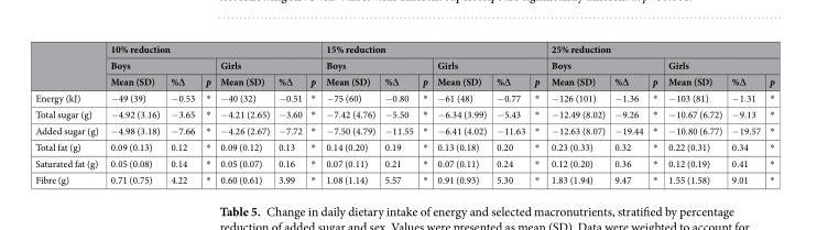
<table><thead><tr><td rowspan="3"></td><td colspan="6">10% reduction</td><td colspan="6">15% reduction</td><td colspan="6">25% reduction</td></tr><tr><td colspan="3">Boys</td><td colspan="3">Girls</td><td colspan="3">Boys</td><td colspan="3">Girls</td><td colspan="3">Boys</td><td colspan="3">Girls</td></tr><tr><td>Mean (SD)</td><td>%∆</td><td>p</td><td>Mean (SD)</td><td>%∆</td><td>p</td><td>Mean (SD)</td><td>%∆</td><td>p</td><td>Mean (SD)</td><td>%∆</td><td>p</td><td>Mean (SD)</td><td>%∆</td><td>p</td><td>Mean (SD)</td><td>%∆</td><td>p</td></tr></thead><tbody><tr><td>Energy (kJ)</td><td>−49 (39)</td><td>−0.53</td><td>*</td><td>−40 (32)</td><td>−0.51</td><td>*</td><td>−75 (60)</td><td>−0.80</td><td>*</td><td>−61 (48)</td><td>−0.77</td><td>*</td><td>−126 (101)</td><td>−1.36</td><td>*</td><td>−103 (81)</td><td>−1.31</td><td>*</td></tr><tr><td>Total sugar (g)</td><td>−4.92 (3.16)</td><td>−3.65</td><td>*</td><td>−4.21 (2.65)</td><td>−3.60</td><td>*</td><td>−7.42 (4.76)</td><td>−5.50</td><td>*</td><td>−6.34 (3.99)</td><td>−5.43</td><td>*</td><td>−12.49 (8.02)</td><td>−9.26</td><td>*</td><td>−10.67 (6.72)</td><td>−9.13</td><td>*</td></tr><tr><td>Added sugar (g)</td><td>−4.98 (3.18)</td><td>−7.66</td><td>*</td><td>−4.26 (2.67)</td><td>−7.72</td><td>*</td><td>−7.50 (4.79)</td><td>−11.55</td><td>*</td><td>−6.41 (4.02)</td><td>−11.63</td><td>*</td><td>−12.63 (8.07)</td><td>−19.44</td><td>*</td><td>−10.80 (6.77)</td><td>−19.57</td><td>*</td></tr><tr><td>Total fat (g)</td><td>0.09 (0.13)</td><td>0.12</td><td>*</td><td>0.09 (0.12)</td><td>0.13</td><td>*</td><td>0.14 (0.20)</td><td>0.19</td><td>*</td><td>0.13 (0.18)</td><td>0.20</td><td>*</td><td>0.23 (0.33)</td><td>0.32</td><td>*</td><td>0.22 (0.31)</td><td>0.34</td><td>*</td></tr><tr><td>Saturated fat (g)</td><td>0.05 (0.08)</td><td>0.14</td><td>*</td><td>0.05 (0.07)</td><td>0.16</td><td>*</td><td>0.07 (0.11)</td><td>0.21</td><td>*</td><td>0.07 (0.11)</td><td>0.24</td><td>*</td><td>0.12 (0.20)</td><td>0.36</td><td>*</td><td>0.12 (0.19)</td><td>0.41</td><td>*</td></tr><tr><td>Fibre (g)</td><td>0.71 (0.75)</td><td>4.22</td><td>*</td><td>0.60 (0.61)</td><td>3.99</td><td>*</td><td>1.08 (1.14)</td><td>5.57</td><td>*</td><td>0.91 (0.93)</td><td>5.30</td><td>*</td><td>1.83 (1.94)</td><td>9.47</td><td>*</td><td>1.55 (1.58)</td><td>9.01</td><td>*</td></tr></tbody></table>